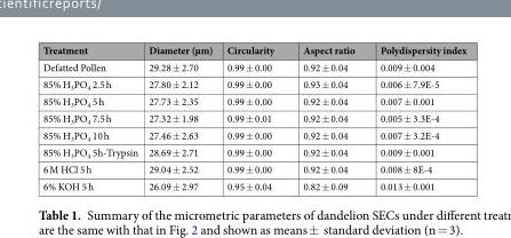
<table><thead><tr><td>Treatment</td><td>Diameter (µm)</td><td>Circularity</td><td>Aspect ratio</td><td>Polydispersity index</td></tr></thead><tbody><tr><td>Defatted Pollen</td><td>29.28 ± 2.70</td><td>0.99 ± 0.00</td><td>0.92 ± 0.04</td><td>0.009 ± 0.004</td></tr><tr><td>85% H<sub>3</sub>PO<sub>4</sub> 2.5 h</td><td>27.80 ± 2.12</td><td>0.99 ± 0.00</td><td>0.93 ± 0.04</td><td>0.006 ± 7.9E-5</td></tr><tr><td>85% H<sub>3</sub>PO<sub>4</sub> 5 h</td><td>27.73 ± 2.35</td><td>0.99 ± 0.00</td><td>0.92 ± 0.04</td><td>0.007 ± 0.001</td></tr><tr><td>85% H<sub>3</sub>PO<sub>4</sub> 7.5 h</td><td>27.32 ± 1.98</td><td>0.99 ± 0.01</td><td>0.92 ± 0.04</td><td>0.005 ± 3.3E-4</td></tr><tr><td>85% H<sub>3</sub>PO<sub>4</sub> 10 h</td><td>27.46 ± 2.63</td><td>0.99 ± 0.00</td><td>0.92 ± 0.04</td><td>0.007 ± 3.2E-4</td></tr><tr><td>85% H<sub>3</sub>PO<sub>4</sub> 5h-Trypsin</td><td>28.69 ± 2.71</td><td>0.99 ± 0.00</td><td>0.92 ± 0.04</td><td>0.009 ± 0.001</td></tr><tr><td>6 M HCl 5 h</td><td>29.04 ± 2.52</td><td>0.99 ± 0.00</td><td>0.92 ± 0.04</td><td>0.008 ± 8E-4</td></tr><tr><td>6% KOH 5 h</td><td>26.09 ± 2.97</td><td>0.95 ± 0.04</td><td>0.82 ± 0.09</td><td>0.013 ± 0.001</td></tr></tbody></table>